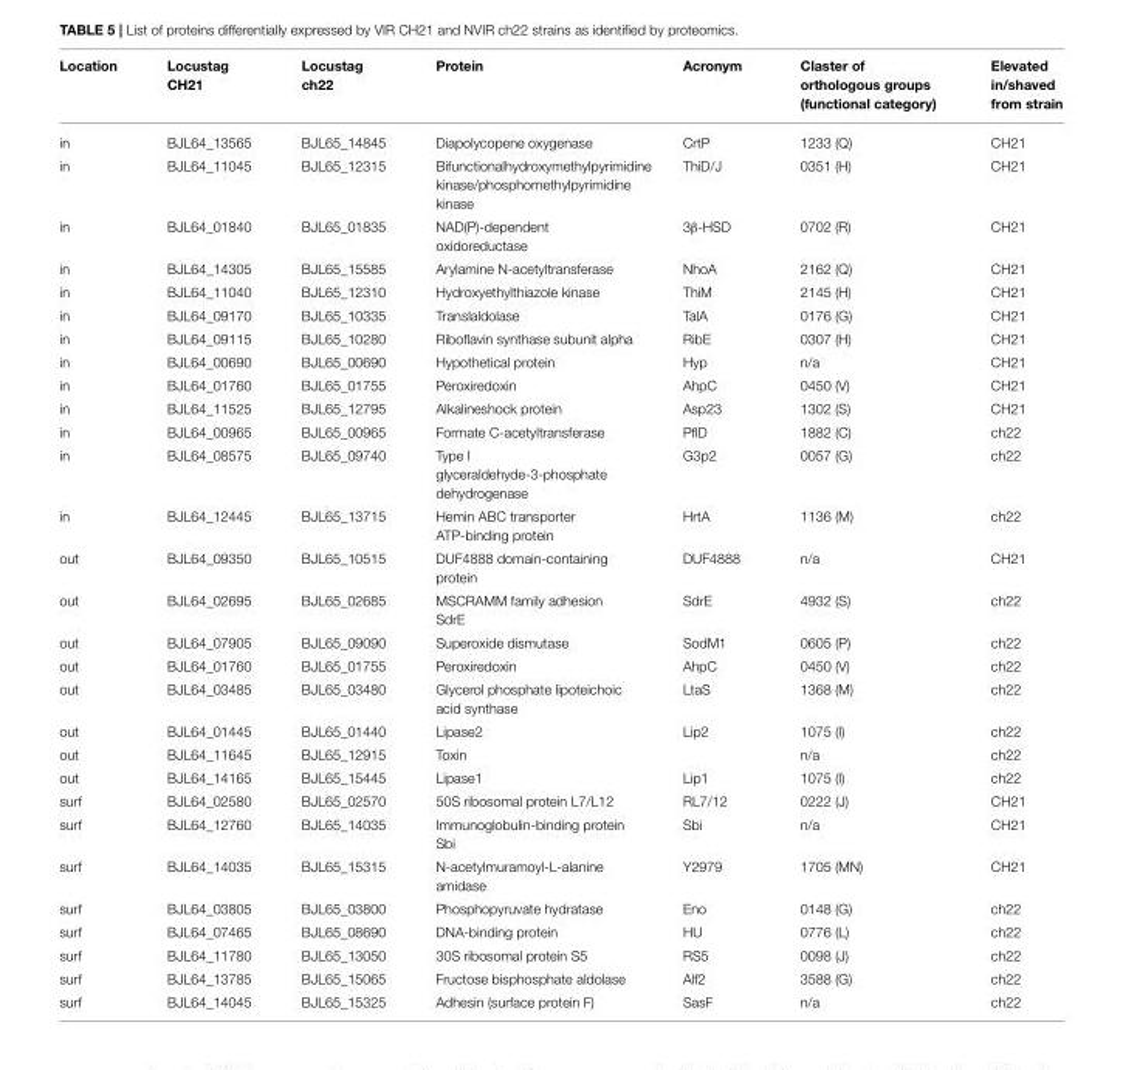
<table><thead><tr><td>Location</td><td>Locustag CH21</td><td>Locustag ch22</td><td>Protein</td><td>Acronym</td><td>Claster of orthologous groups (functional category)</td><td>Elevated in/shaved from strain</td></tr></thead><tbody><tr><td>in</td><td>BJL64_13565</td><td>BJL65_14845</td><td>Diapolycopene oxygenase</td><td>CrtP</td><td>1233 (Q)</td><td>CH21</td></tr><tr><td>in</td><td>BJL64_11045</td><td>BJL65_12315</td><td>Bifunctionalhydroxymethylpyrimidine kinase/phosphomethylpyrimidine kinase</td><td>ThiD/J</td><td>0351 (H)</td><td>CH21</td></tr><tr><td>in</td><td>BJL64_01840</td><td>BJL65_01835</td><td>NAD(P)-dependent oxidoreductase</td><td>3β-HSD</td><td>0702 (R)</td><td>CH21</td></tr><tr><td>in</td><td>BJL64_14305</td><td>BJL65_15585</td><td>Arylamine N-acetyltransferase</td><td>NhoA</td><td>2162 (Q)</td><td>CH21</td></tr><tr><td>in</td><td>BJL64_11040</td><td>BJL65_12310</td><td>Hydroxyethylthiazole kinase</td><td>ThiM</td><td>2145 (H)</td><td>CH21</td></tr><tr><td>in</td><td>BJL64_09170</td><td>BJL65_10335</td><td>Translaldolase</td><td>TalA</td><td>0176 (G)</td><td>CH21</td></tr><tr><td>in</td><td>BJL64_09115</td><td>BJL65_10280</td><td>Riboflavin synthase subunit alpha</td><td>RibE</td><td>0307 (H)</td><td>CH21</td></tr><tr><td>in</td><td>BJL64_00690</td><td>BJL65_00690</td><td>Hypothetical protein</td><td>Hyp</td><td>n/a</td><td>CH21</td></tr><tr><td>in</td><td>BJL64_01760</td><td>BJL65_01755</td><td>Peroxiredoxin</td><td>AhpC</td><td>0450 (V)</td><td>CH21</td></tr><tr><td>in</td><td>BJL64_11525</td><td>BJL65_12795</td><td>Alkalineshock protein</td><td>Asp23</td><td>1302 (S)</td><td>CH21</td></tr><tr><td>in</td><td>BJL64_00965</td><td>BJL65_00965</td><td>Formate C-acetyltransferase</td><td>PflD</td><td>1882 (C)</td><td>ch22</td></tr><tr><td>in</td><td>BJL64_08575</td><td>BJL65_09740</td><td>Type I glyceraldehyde-3-phosphate dehydrogenase</td><td>G3p2</td><td>0057 (G)</td><td>ch22</td></tr><tr><td>in</td><td>BJL64_12445</td><td>BJL65_13715</td><td>Hemin ABC transporter ATP-binding protein</td><td>HrtA</td><td>1136 (M)</td><td>ch22</td></tr><tr><td>out</td><td>BJL64_09350</td><td>BJL65_10515</td><td>DUF4888 domain-containing protein</td><td>DUF4888</td><td>n/a</td><td>CH21</td></tr><tr><td>out</td><td>BJL64_02695</td><td>BJL65_02685</td><td>MSCRAMM family adhesion SdrE</td><td>SdrE</td><td>4932 (S)</td><td>ch22</td></tr><tr><td>out</td><td>BJL64_07905</td><td>BJL65_09090</td><td>Superoxide dismutase</td><td>SodM1</td><td>0605 (P)</td><td>ch22</td></tr><tr><td>out</td><td>BJL64_01760</td><td>BJL65_01755</td><td>Peroxiredoxin</td><td>AhpC</td><td>0450 (V)</td><td>ch22</td></tr><tr><td>out</td><td>BJL64_03485</td><td>BJL65_03480</td><td>Glycerol phosphate lipoteichoic acid synthase</td><td>LtaS</td><td>1368 (M)</td><td>ch22</td></tr><tr><td>out</td><td>BJL64_01445</td><td>BJL65_01440</td><td>Lipase2</td><td>Lip2</td><td>1075 (I)</td><td>ch22</td></tr><tr><td>out</td><td>BJL64_11645</td><td>BJL65_12915</td><td>Toxin</td><td></td><td>n/a</td><td>ch22</td></tr><tr><td>out</td><td>BJL64_14165</td><td>BJL65_15445</td><td>Lipase1</td><td>Lip1</td><td>1075 (I)</td><td>ch22</td></tr><tr><td>surf</td><td>BJL64_02580</td><td>BJL65_02570</td><td>50S ribosomal protein L7/L12</td><td>RL7/12</td><td>0222 (J)</td><td>CH21</td></tr><tr><td>surf</td><td>BJL64_12760</td><td>BJL65_14035</td><td>Immunoglobulin-binding protein Sbi</td><td>Sbi</td><td>n/a</td><td>CH21</td></tr><tr><td>surf</td><td>BJL64_14035</td><td>BJL65_15315</td><td>N-acetylmuramoyl-L-alanine amidase</td><td>Y2979</td><td>1705 (MN)</td><td>CH21</td></tr><tr><td>surf</td><td>BJL64_03805</td><td>BJL65_03800</td><td>Phosphopyruvate hydratase</td><td>Eno</td><td>0148 (G)</td><td>ch22</td></tr><tr><td>surf</td><td>BJL64_07465</td><td>BJL65_08690</td><td>DNA-binding protein</td><td>HU</td><td>0776 (L)</td><td>ch22</td></tr><tr><td>surf</td><td>BJL64_11780</td><td>BJL65_13050</td><td>30S ribosomal protein S5</td><td>RS5</td><td>0098 (J)</td><td>ch22</td></tr><tr><td>surf</td><td>BJL64_13785</td><td>BJL65_15065</td><td>Fructose bisphosphate aldolase</td><td>Alf2</td><td>3588 (G)</td><td>ch22</td></tr><tr><td>surf</td><td>BJL64_14045</td><td>BJL65_15325</td><td>Adhesin (surface protein F)</td><td>SasF</td><td>n/a</td><td>ch22</td></tr></tbody></table>